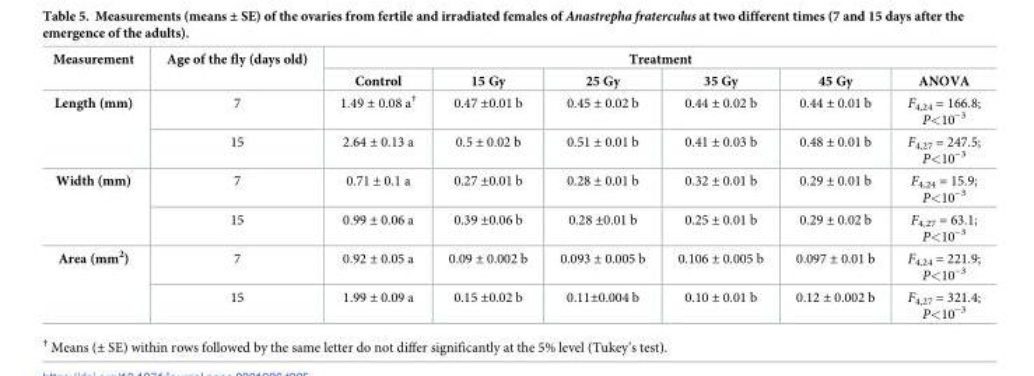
<table><thead><tr><td rowspan="2">Measurement</td><td rowspan="2">Age of the fly (days old)</td><td colspan="6">Treatment</td></tr><tr><td>Control</td><td>15 Gy</td><td>25 Gy</td><td>35 Gy</td><td>45 Gy</td><td>ANOVA</td></tr></thead><tbody><tr><td rowspan="2">Length (mm)</td><td>7</td><td>1.49 ± 0.08 a<sup>†</sup></td><td>0.47 ±0.01 b</td><td>0.45 ± 0.02 b</td><td>0.44 ± 0.02 b</td><td>0.44 ± 0.01 b</td><td>F<sub>4,24</sub> = 166.8; P&lt;10<sup>−3</sup></td></tr><tr><td>15</td><td>2.64 ± 0.13 a</td><td>0.5 ± 0.02 b</td><td>0.51 ± 0.01 b</td><td>0.41 ± 0.03 b</td><td>0.48 ± 0.01 b</td><td>F<sub>4,27</sub> = 247.5; P&lt;10<sup>−3</sup></td></tr><tr><td rowspan="2">Width (mm)</td><td>7</td><td>0.71 ± 0.1 a</td><td>0.27 ±0.01 b</td><td>0.28 ± 0.01 b</td><td>0.32 ± 0.01 b</td><td>0.29 ± 0.01 b</td><td>F<sub>4,24</sub> = 15.9; P&lt;10<sup>−3</sup></td></tr><tr><td>15</td><td>0.99 ± 0.06 a</td><td>0.39 ±0.06 b</td><td>0.28 ±0.01 b</td><td>0.25 ± 0.01 b</td><td>0.29 ± 0.02 b</td><td>F<sub>4,27</sub> = 63.1; P&lt;10<sup>−3</sup></td></tr><tr><td rowspan="2">Area (mm<sup>2</sup>)</td><td>7</td><td>0.92 ± 0.05 a</td><td>0.09 ± 0.002 b</td><td>0.093 ± 0.005 b</td><td>0.106 ± 0.005 b</td><td>0.097 ± 0.01 b</td><td>F<sub>4,24</sub> = 221.9; P&lt;10<sup>−3</sup></td></tr><tr><td>15</td><td>1.99 ± 0.09 a</td><td>0.15 ±0.02 b</td><td>0.11±0.004 b</td><td>0.10 ± 0.01 b</td><td>0.12 ± 0.002 b</td><td>F<sub>4,27</sub> = 321.4; P&lt;10<sup>−3</sup></td></tr></tbody></table>